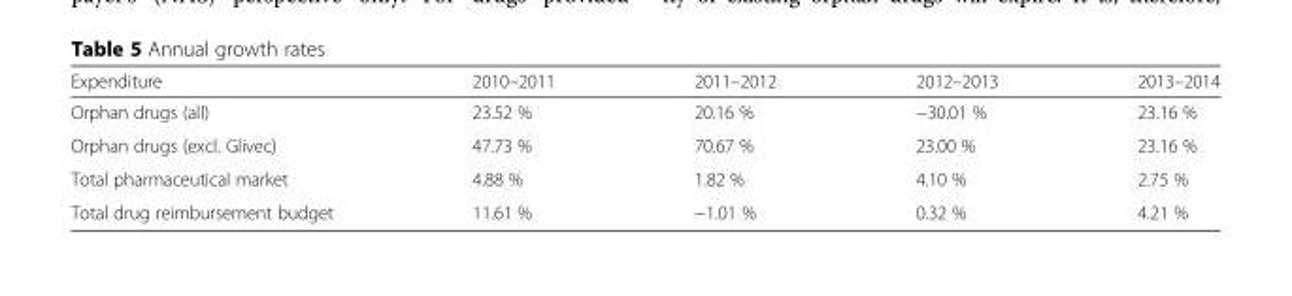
<table><thead><tr><td>Expenditure</td><td>2010–2011</td><td>2011–2012</td><td>2012–2013</td><td>2013–2014</td></tr></thead><tbody><tr><td>Orphan drugs (all)</td><td>23.52 %</td><td>20.16 %</td><td>−30.01 %</td><td>23.16 %</td></tr><tr><td>Orphan drugs (excl. Glivec)</td><td>47.73 %</td><td>70.67 %</td><td>23.00 %</td><td>23.16 %</td></tr><tr><td>Total pharmaceutical market</td><td>4.88 %</td><td>1.82 %</td><td>4.10 %</td><td>2.75 %</td></tr><tr><td>Total drug reimbursement budget</td><td>11.61 %</td><td>−1.01 %</td><td>0.32 %</td><td>4.21 %</td></tr></tbody></table>